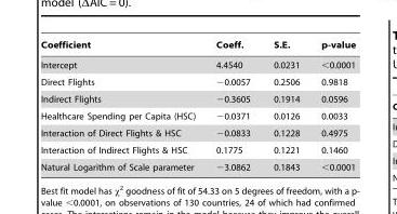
<table><thead><tr><td>Coefficient</td><td>Coeff.</td><td>S.E.</td><td>p-value</td></tr></thead><tbody><tr><td>Intercept</td><td>4.4540</td><td>0.0231</td><td>&lt;0.0001</td></tr><tr><td>Direct Flights</td><td>−0.0057</td><td>0.2506</td><td>0.9818</td></tr><tr><td>Indirect Flights</td><td>−0.3605</td><td>0.1914</td><td>0.0596</td></tr><tr><td>Healthcare Spending per Capita (HSC)</td><td>−0.0371</td><td>0.0126</td><td>0.0033</td></tr><tr><td>Interaction of Direct Flights &amp; HSC</td><td>−0.0833</td><td>0.1228</td><td>0.4975</td></tr><tr><td>Interaction of Indirect Flights &amp; HSC</td><td>0.1775</td><td>0.1221</td><td>0.1460</td></tr><tr><td>Natural Logarithm of Scale parameter</td><td>−3.0862</td><td>0.1843</td><td>&lt;0.0001</td></tr></tbody></table>